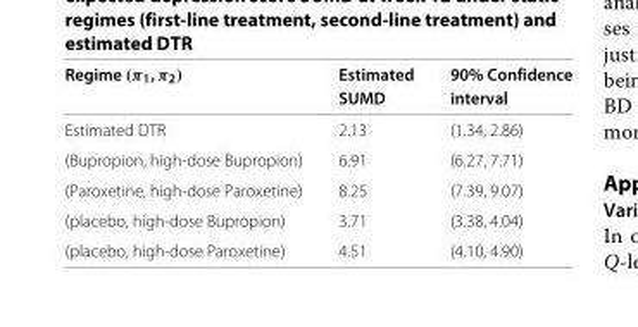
<table><thead><tr><td rowspan="2">Regime (π<sub>1</sub>, π<sub>2</sub>)</td><td rowspan="2">Estimated SUMD</td><td rowspan="2">90% Confidence interval</td></tr><tr></tr></thead><tbody><tr><td>Estimated DTR</td><td>2.13</td><td>(1.34, 2.86)</td></tr><tr><td>(Bupropion, high-dose Bupropion)</td><td>6.91</td><td>(6.27, 7.71)</td></tr><tr><td>(Paroxetine, high-dose Paroxetine)</td><td>8.25</td><td>(7.39, 9.07)</td></tr><tr><td>(placebo, high-dose Bupropion)</td><td>3.71</td><td>(3.38, 4.04)</td></tr><tr><td>(placebo, high-dose Paroxetine)</td><td>4.51</td><td>(4.10, 4.90)</td></tr></tbody></table>